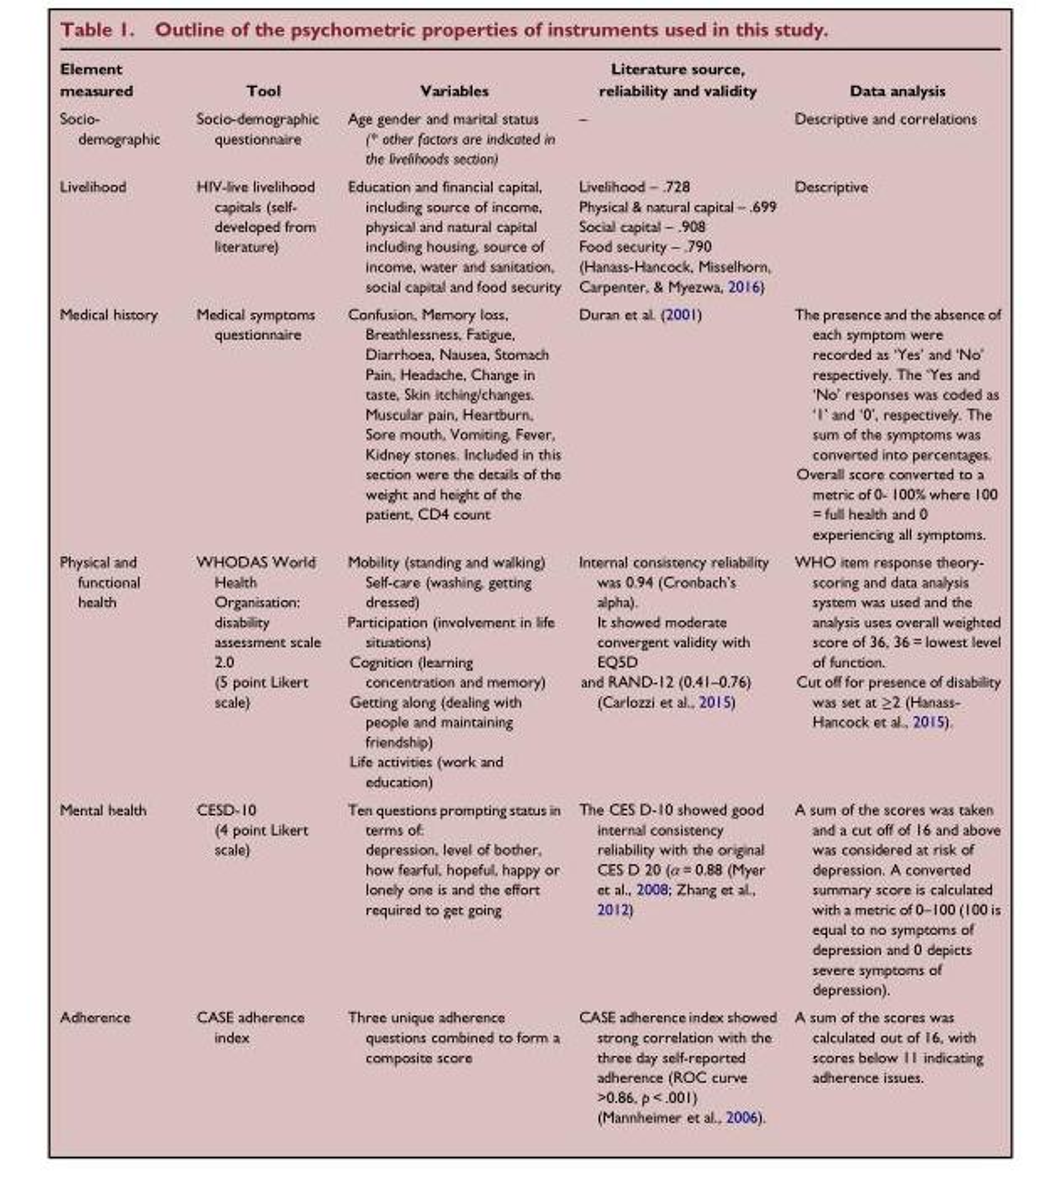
<table><thead><tr><td>Element measured</td><td>Tool</td><td>Variables</td><td>Literature source, reliability and validity</td><td>Data analysis</td></tr></thead><tbody><tr><td>Socio- demographic</td><td>Socio-demographic questionnaire</td><td>Age gender and marital status (* other factors are indicated in the livelihoods section)</td><td>–</td><td>Descriptive and correlations</td></tr><tr><td>Livelihood</td><td>HIV-live livelihood capitals (self- developed from literature)</td><td>Education and financial capital, including source of income, physical and natural capital including housing, source of income, water and sanitation, social capital and food security</td><td>Livelihood – .728 Physical &amp; natural capital – .699 Social capital – .908 Food security – .790 (Hanass-Hancock, Misselhorn, Carpenter, &amp; Myezwa, 2016)</td><td>Descriptive</td></tr><tr><td>Medical history</td><td>Medical symptoms questionnaire</td><td>Confusion, Memory loss, Breathlessness, Fatigue, Diarrhoea, Nausea, Stomach Pain, Headache, Change in taste, Skin itching/changes. Muscular pain, Heartburn, Sore mouth, Vomiting, Fever, Kidney stones. Included in this section were the details of the weight and height of the patient, CD4 count</td><td>Duran et al. (2001)</td><td>The presence and the absence of each symptom were recorded as ‘Yes’ and ‘No’ respectively. The ‘Yes and ‘No’ responses was coded as ‘1’ and ‘0’, respectively. The sum of the symptoms was converted into percentages. Overall score converted to a metric of 0- 100% where 100 = full health and 0 experiencing all symptoms.</td></tr><tr><td>Physical and functional health</td><td>WHODAS World Health Organisation: disability assessment scale 2.0 (5 point Likert scale)</td><td>Mobility (standing and walking) Self-care (washing, getting dressed) Participation (involvement in life situations) Cognition (learning concentration and memory) Getting along (dealing with people and maintaining friendship) Life activities (work and education)</td><td>Internal consistency reliability was 0.94 (Cronbach’s alpha). It showed moderate convergent validity with EQ5D and RAND-12 (0.41–0.76) (Carlozzi et al., 2015)</td><td>WHO item response theory- scoring and data analysis system was used and the analysis uses overall weighted score of 36, 36 = lowest level of function. Cut off for presence of disability was set at ≥2 (Hanass- Hancock et al., 2015).</td></tr><tr><td>Mental health</td><td>CESD-10 (4 point Likert scale)</td><td>Ten questions prompting status in terms of: depression, level of bother, how fearful, hopeful, happy or lonely one is and the effort required to get going</td><td>The CES D-10 showed good internal consistency reliability with the original CES D 20 (α = 0.88 (Myer et al., 2008; Zhang et al., 2012)</td><td>A sum of the scores was taken and a cut off of 16 and above was considered at risk of depression. A converted summary score is calculated with a metric of 0–100 (100 is equal to no symptoms of depression and 0 depicts severe symptoms of depression).</td></tr><tr><td>Adherence</td><td>CASE adherence index</td><td>Three unique adherence questions combined to form a composite score</td><td>CASE adherence index showed strong correlation with the three day self-reported adherence (ROC curve &gt;0.86, p &lt; .001) (Mannheimer et al., 2006).</td><td>A sum of the scores was calculated out of 16, with scores below 11 indicating adherence issues.</td></tr></tbody></table>